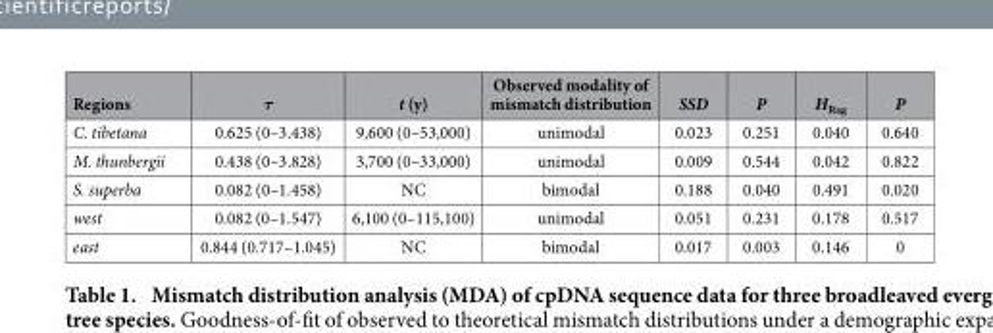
<table><thead><tr><td>Regions</td><td>τ</td><td>t (y)</td><td>Observed modality of mismatch distribution</td><td>SSD</td><td>P</td><td>H<sub>Rag</sub></td><td>P</td></tr></thead><tbody><tr><td>C. tibetana</td><td>0.625 (0–3.438)</td><td>9,600 (0–53,000)</td><td>unimodal</td><td>0.023</td><td>0.251</td><td>0.040</td><td>0.640</td></tr><tr><td>M. thunbergii</td><td>0.438 (0–3.828)</td><td>3,700 (0–33,000)</td><td>unimodal</td><td>0.009</td><td>0.544</td><td>0.042</td><td>0.822</td></tr><tr><td>S. superba</td><td>0.082 (0–1.458)</td><td>NC</td><td>bimodal</td><td>0.188</td><td>0.040</td><td>0.491</td><td>0.020</td></tr><tr><td>west</td><td>0.082 (0–1.547)</td><td>6,100 (0–115,100)</td><td>unimodal</td><td>0.051</td><td>0.231</td><td>0.178</td><td>0.517</td></tr><tr><td>east</td><td>0.844 (0.717–1.045)</td><td>NC</td><td>bimodal</td><td>0.017</td><td>0.003</td><td>0.146</td><td>0</td></tr></tbody></table>